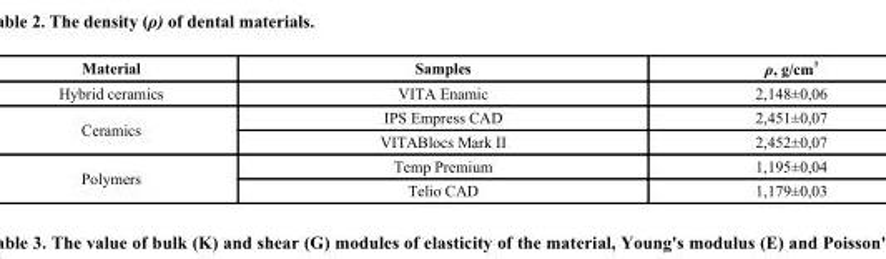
<table><thead><tr><td>Material</td><td>Samples</td><td>ρ, g/cm <sup>3</sup></td></tr></thead><tbody><tr><td>Hybrid ceramics</td><td>VITA Enamic</td><td>2,148±0,06</td></tr><tr><td rowspan="2">Ceramics</td><td>IPS Empress CAD</td><td>2,451±0,07</td></tr><tr><td>VITABlocs Mark II</td><td>2,452±0,07</td></tr><tr><td rowspan="2">Polymers</td><td>Temp Premium</td><td>1,195±0,04</td></tr><tr><td>Telio CAD</td><td>1,179±0,03</td></tr></tbody></table>